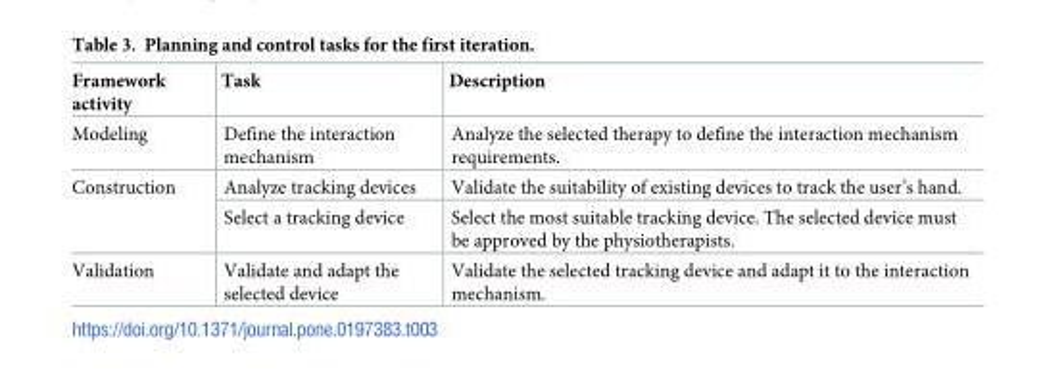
<table><thead><tr><td>Framework activity</td><td>Task</td><td>Description</td></tr></thead><tbody><tr><td>Modeling</td><td>Define the interaction mechanism</td><td>Analyze the selected therapy to define the interaction mechanism requirements.</td></tr><tr><td rowspan="2">Construction</td><td>Analyze tracking devices</td><td>Validate the suitability of existing devices to track the user’s hand.</td></tr><tr><td>Select a tracking device</td><td>Select the most suitable tracking device. The selected device must be approved by the physiotherapists.</td></tr><tr><td>Validation</td><td>Validate and adapt the selected device</td><td>Validate the selected tracking device and adapt it to the interaction mechanism.</td></tr></tbody></table>